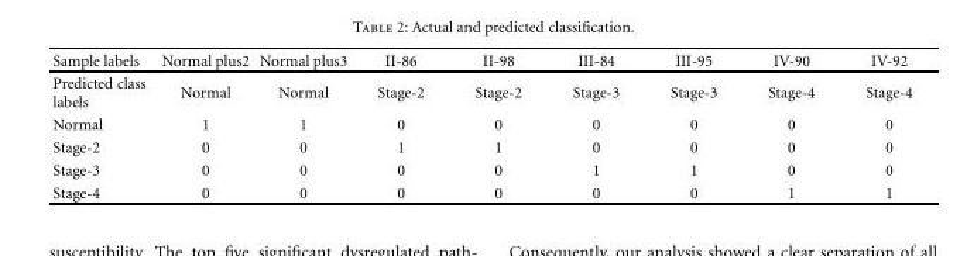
<table><thead><tr><td>Sample labels</td><td>Normal plus2</td><td>Normal plus3</td><td>II-86</td><td>II-98</td><td>III-84</td><td>III-95</td><td>IV-90</td><td>IV-92</td></tr></thead><tbody><tr><td>Predicted class labels</td><td>Normal</td><td>Normal</td><td>Stage-2</td><td>Stage-2</td><td>Stage-3</td><td>Stage-3</td><td>Stage-4</td><td>Stage-4</td></tr><tr><td>Normal</td><td>1</td><td>1</td><td>0</td><td>0</td><td>0</td><td>0</td><td>0</td><td>0</td></tr><tr><td>Stage-2</td><td>0</td><td>0</td><td>1</td><td>1</td><td>0</td><td>0</td><td>0</td><td>0</td></tr><tr><td>Stage-3</td><td>0</td><td>0</td><td>0</td><td>0</td><td>1</td><td>1</td><td>0</td><td>0</td></tr><tr><td>Stage-4</td><td>0</td><td>0</td><td>0</td><td>0</td><td>0</td><td>0</td><td>1</td><td>1</td></tr></tbody></table>